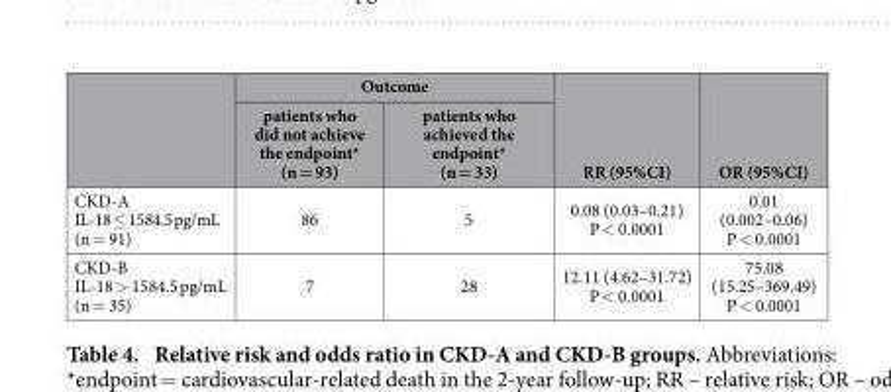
<table><thead><tr><td rowspan="2"></td><td colspan="2">Outcome</td><td rowspan="2">RR (95%CI)</td><td rowspan="2">OR (95%CI)</td></tr><tr><td>patients who did not achieve the endpoint* (n = 93)</td><td>patients who achieved the endpoint* (n = 33)</td></tr></thead><tbody><tr><td>CKD-A IL-18 ≤ 1584.5 pg/mL (n = 91)</td><td>86</td><td>5</td><td>0.08 (0.03–0.21) P &lt; 0.0001</td><td>0.01 (0.002–0.06) P &lt; 0.0001</td></tr><tr><td>CKD-B IL-18 &gt; 1584.5 pg/mL (n = 35)</td><td>7</td><td>28</td><td>12.11 (4.62–31.72) P &lt; 0.0001</td><td>75.08 (15.25–369.49) P &lt; 0.0001</td></tr></tbody></table>